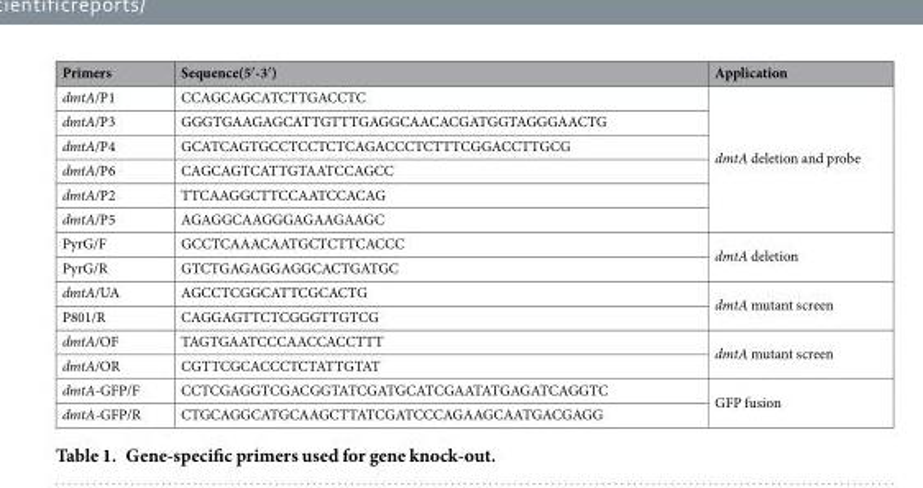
<table><thead><tr><td>Primers</td><td>Sequence(5′ -3′ )</td><td>Application</td></tr></thead><tbody><tr><td>dmtA/P1</td><td>CCAGCAGCATCTTGACCTC</td><td rowspan="6">dmtA deletion and probe</td></tr><tr><td>dmtA/P3</td><td>GGGTGAAGAGCATTGTTTGAGGCAACACGATGGTAGGGAACTG</td></tr><tr><td>dmtA/P4</td><td>GCATCAGTGCCTCCTCTCAGACCCTCTTTCGGACCTTGCG</td></tr><tr><td>dmtA/P6</td><td>CAGCAGTCATTGTAATCCAGCC</td></tr><tr><td>dmtA/P2</td><td>TTCAAGGCTTCCAATCCACAG</td></tr><tr><td>dmtA/P5</td><td>AGAGGCAAGGGAGAAGAAGC</td></tr><tr><td>PyrG/F</td><td>GCCTCAAACAATGCTCTTCACCC</td><td rowspan="2">dmtA deletion</td></tr><tr><td>PyrG/R</td><td>GTCTGAGAGGAGGCACTGATGC</td></tr><tr><td>dmtA/UA</td><td>AGCCTCGGCATTCGCACTG</td><td rowspan="2">dmtA mutant screen</td></tr><tr><td>P801/R</td><td>CAGGAGTTCTCGGGTTGTCG</td></tr><tr><td>dmtA/OF</td><td>TAGTGAATCCCAACCACCTTT</td><td rowspan="2">dmtA mutant screen</td></tr><tr><td>dmtA/OR</td><td>CGTTCGCACCCTCTATTGTAT</td></tr><tr><td>dmtA-GFP/F</td><td>CCTCGAGGTCGACGGTATCGATGCATCGAATATGAGATCAGGTC</td><td rowspan="2">GFP fusion</td></tr><tr><td>dmtA-GFP/R</td><td>CTGCAGGCATGCAAGCTTATCGATCCCAGAAGCAATGACGAGG</td></tr></tbody></table>